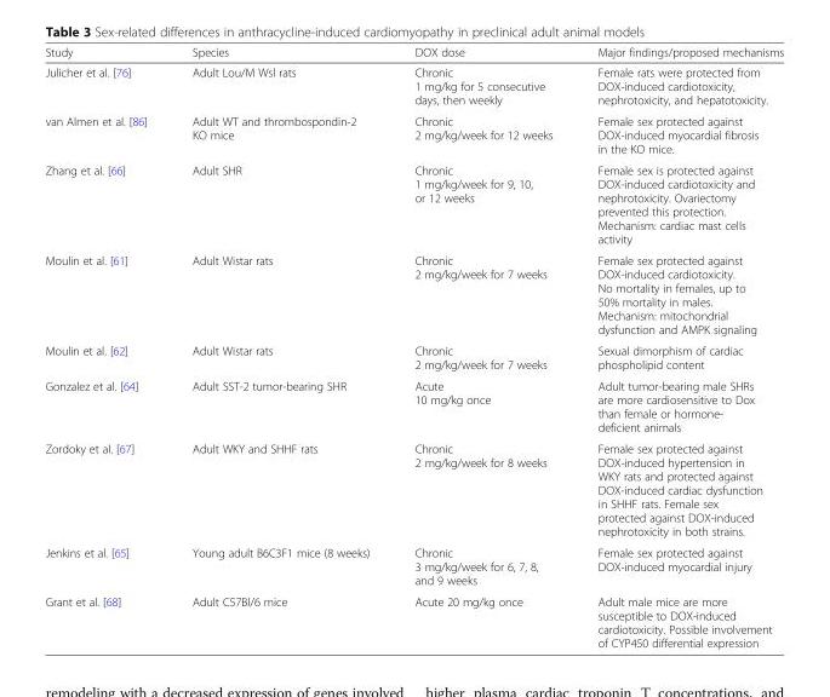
<table><thead><tr><td>Study</td><td>Species</td><td>DOX dose</td><td>Major findings/proposed mechanisms</td></tr></thead><tbody><tr><td>Julicher et al. [76]</td><td>Adult Lou/M Wsl rats</td><td>Chronic 1 mg/kg for 5 consecutive days, then weekly</td><td>Female rats were protected from DOX-induced cardiotoxicity, nephrotoxicity, and hepatotoxicity.</td></tr><tr><td>van Almen et al. [86]</td><td>Adult WT and thrombospondin-2 KO mice</td><td>Chronic 2 mg/kg/week for 12 weeks</td><td>Female sex protected against DOX-induced myocardial fibrosis in the KO mice.</td></tr><tr><td>Zhang et al. [66]</td><td>Adult SHR</td><td>Chronic 1 mg/kg/week for 9, 10, or 12 weeks</td><td>Female sex is protected against DOX-induced cardiotoxicity and nephrotoxicity. Ovariectomy prevented this protection. Mechanism: cardiac mast cells activity</td></tr><tr><td>Moulin et al. [61]</td><td>Adult Wistar rats</td><td>Chronic 2 mg/kg/week for 7 weeks</td><td>Female sex protected against DOX-induced cardiotoxicity. No mortality in females, up to 50% mortality in males. Mechanism: mitochondrial dysfunction and AMPK signaling</td></tr><tr><td>Moulin et al. [62]</td><td>Adult Wistar rats</td><td>Chronic 2 mg/kg/week for 7 weeks</td><td>Sexual dimorphism of cardiac phospholipid content</td></tr><tr><td>Gonzalez et al. [64]</td><td>Adult SST-2 tumor-bearing SHR</td><td>Acute 10 mg/kg once</td><td>Adult tumor-bearing male SHRs are more cardiosensitive to Dox than female or hormone- deficient animals</td></tr><tr><td>Zordoky et al. [67]</td><td>Adult WKY and SHHF rats</td><td>Chronic 2 mg/kg/week for 8 weeks</td><td>Female sex protected against DOX-induced hypertension in WKY rats and protected against DOX-induced cardiac dysfunction in SHHF rats. Female sex protected against DOX-induced nephrotoxicity in both strains.</td></tr><tr><td>Jenkins et al. [65]</td><td>Young adult B6C3F1 mice (8 weeks)</td><td>Chronic 3 mg/kg/week for 6, 7, 8, and 9 weeks</td><td>Female sex protected against DOX-induced myocardial injury</td></tr><tr><td>Grant et al. [68]</td><td>Adult C57Bl/6 mice</td><td>Acute 20 mg/kg once</td><td>Adult male mice are more susceptible to DOX-induced cardiotoxicity. Possible involvement of CYP450 differential expression</td></tr></tbody></table>